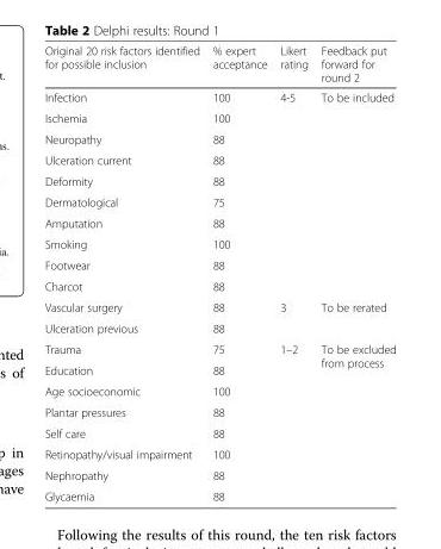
<table><thead><tr><td>Original 20 risk factors identified for possible inclusion</td><td>% expert acceptance</td><td>Likert rating</td><td>Feedback put forward for round 2</td></tr></thead><tbody><tr><td>Infection</td><td>100</td><td rowspan="10">4-5</td><td rowspan="10">To be included</td></tr><tr><td>Ischemia</td><td>100</td></tr><tr><td>Neuropathy</td><td>88</td></tr><tr><td>Ulceration current</td><td>88</td></tr><tr><td>Deformity</td><td>88</td></tr><tr><td>Dermatological</td><td>75</td></tr><tr><td>Amputation</td><td>88</td></tr><tr><td>Smoking</td><td>100</td></tr><tr><td>Footwear</td><td>88</td></tr><tr><td>Charcot</td><td>88</td></tr><tr><td>Vascular surgery</td><td>88</td><td rowspan="2">3</td><td rowspan="2">To be rerated</td></tr><tr><td>Ulceration previous</td><td>88</td></tr><tr><td>Trauma</td><td>75</td><td rowspan="8">1–2</td><td rowspan="8">To be excluded from process</td></tr><tr><td>Education</td><td>88</td></tr><tr><td>Age socioeconomic</td><td>100</td></tr><tr><td>Plantar pressures</td><td>88</td></tr><tr><td>Self care</td><td>88</td></tr><tr><td>Retinopathy/visual impairment</td><td>100</td></tr><tr><td>Nephropathy</td><td>88</td></tr><tr><td>Glycaemia</td><td>88</td></tr></tbody></table>